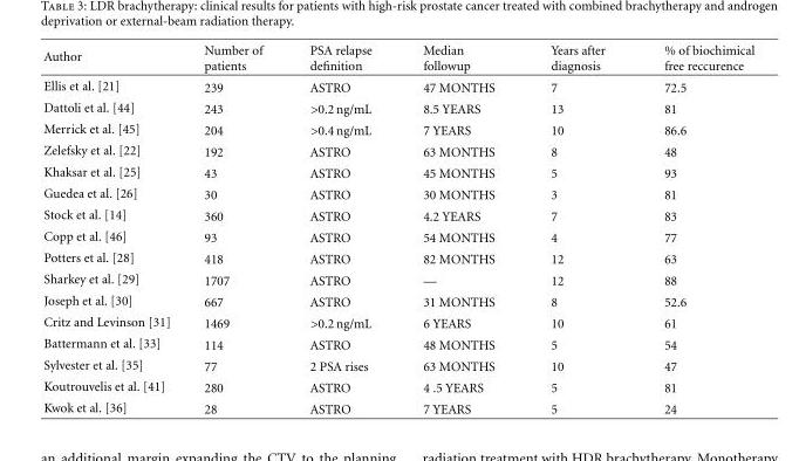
<table><thead><tr><td>Author</td><td>Number of patients</td><td>PSA relapse definition</td><td>Median followup</td><td>Years after diagnosis</td><td>% of biochimical free reccurence</td></tr></thead><tbody><tr><td>Ellis et al. [21]</td><td>239</td><td>ASTRO</td><td>47 MONTHS</td><td>7</td><td>72.5</td></tr><tr><td>Dattoli et al. [44]</td><td>243</td><td>&gt;0.2 ng/mL</td><td>8.5 YEARS</td><td>13</td><td>81</td></tr><tr><td>Merrick et al. [45]</td><td>204</td><td>&gt;0.4 ng/mL</td><td>7 YEARS</td><td>10</td><td>86.6</td></tr><tr><td>Zelefsky et al. [22]</td><td>192</td><td>ASTRO</td><td>63 MONTHS</td><td>8</td><td>48</td></tr><tr><td>Khaksar et al. [25]</td><td>43</td><td>ASTRO</td><td>45 MONTHS</td><td>5</td><td>93</td></tr><tr><td>Guedea et al. [26]</td><td>30</td><td>ASTRO</td><td>30 MONTHS</td><td>3</td><td>81</td></tr><tr><td>Stock et al. [14]</td><td>360</td><td>ASTRO</td><td>4.2 YEARS</td><td>7</td><td>83</td></tr><tr><td>Copp et al. [46]</td><td>93</td><td>ASTRO</td><td>54 MONTHS</td><td>4</td><td>77</td></tr><tr><td>Potters et al. [28]</td><td>418</td><td>ASTRO</td><td>82 MONTHS</td><td>12</td><td>63</td></tr><tr><td>Sharkey et al. [29]</td><td>1707</td><td>ASTRO</td><td>—</td><td>12</td><td>88</td></tr><tr><td>Joseph et al. [30]</td><td>667</td><td>ASTRO</td><td>31 MONTHS</td><td>8</td><td>52.6</td></tr><tr><td>Critz and Levinson [31]</td><td>1469</td><td>&gt;0.2 ng/mL</td><td>6 YEARS</td><td>10</td><td>61</td></tr><tr><td>Battermann et al. [33]</td><td>114</td><td>ASTRO</td><td>48 MONTHS</td><td>5</td><td>54</td></tr><tr><td>Sylvester et al. [35]</td><td>77</td><td>2 PSA rises</td><td>63 MONTHS</td><td>10</td><td>47</td></tr><tr><td>Koutrouvelis et al. [41]</td><td>280</td><td>ASTRO</td><td>4 .5 YEARS</td><td>5</td><td>81</td></tr><tr><td>Kwok et al. [36]</td><td>28</td><td>ASTRO</td><td>7 YEARS</td><td>5</td><td>24</td></tr></tbody></table>